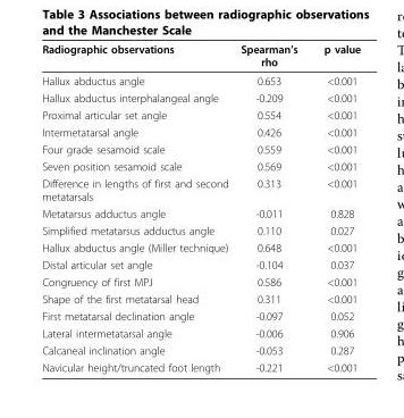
<table><thead><tr><td>Radiographic observations</td><td>Spearman’s rho</td><td>p value</td></tr></thead><tbody><tr><td>Hallux abductus angle</td><td>0.653</td><td>&lt;0.001</td></tr><tr><td>Hallux abductus interphalangeal angle</td><td>-0.209</td><td>&lt;0.001</td></tr><tr><td>Proximal articular set angle</td><td>0.554</td><td>&lt;0.001</td></tr><tr><td>Intermetatarsal angle</td><td>0.426</td><td>&lt;0.001</td></tr><tr><td>Four grade sesamoid scale</td><td>0.559</td><td>&lt;0.001</td></tr><tr><td>Seven position sesamoid scale</td><td>0.569</td><td>&lt;0.001</td></tr><tr><td>Difference in lengths of first and second metatarsals</td><td>0.313</td><td>&lt;0.001</td></tr><tr><td>Metatarsus adductus angle</td><td>-0.011</td><td>0.828</td></tr><tr><td>Simplified metatarsus adductus angle</td><td>0.110</td><td>0.027</td></tr><tr><td>Hallux abductus angle (Miller technique)</td><td>0.648</td><td>&lt;0.001</td></tr><tr><td>Distal articular set angle</td><td>-0.104</td><td>0.037</td></tr><tr><td>Congruency of first MPJ</td><td>0.586</td><td>&lt;0.001</td></tr><tr><td>Shape of the first metatarsal head</td><td>0.311</td><td>&lt;0.001</td></tr><tr><td>First metatarsal declination angle</td><td>-0.097</td><td>0.052</td></tr><tr><td>Lateral intermetatarsal angle</td><td>-0.006</td><td>0.906</td></tr><tr><td>Calcaneal inclination angle</td><td>-0.053</td><td>0.287</td></tr><tr><td>Navicular height/truncated foot length</td><td>-0.221</td><td>&lt;0.001</td></tr></tbody></table>